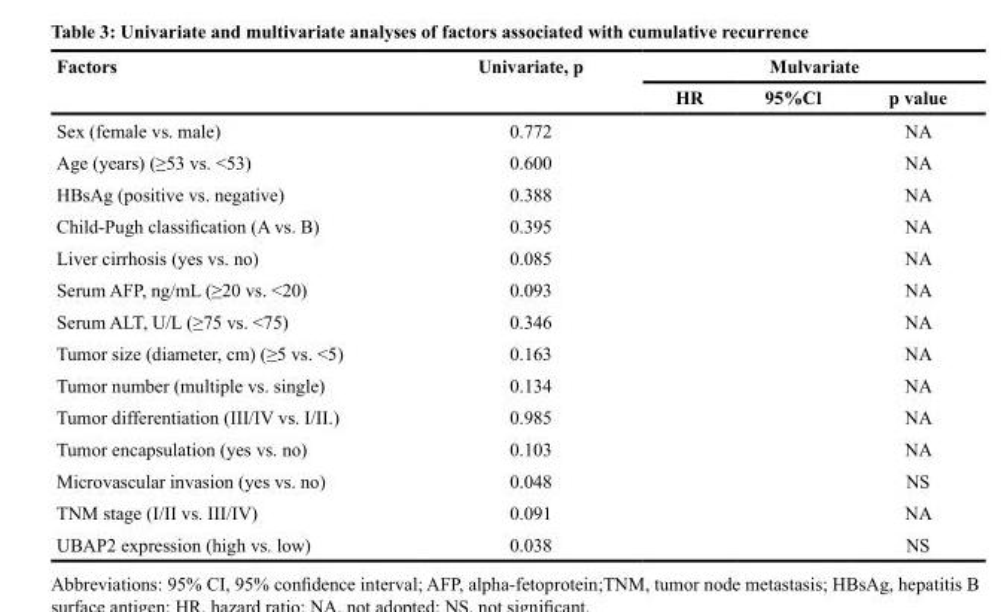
<table><thead><tr><td rowspan="2">Factors</td><td rowspan="2">Univariate, p</td><td colspan="3">Mulvariate</td></tr><tr><td>HR</td><td>95%Cl</td><td>p value</td></tr></thead><tbody><tr><td>Sex (female vs. male)</td><td>0.772</td><td></td><td></td><td>NA</td></tr><tr><td>Age (years) (≥53 vs. &lt;53)</td><td>0.600</td><td></td><td></td><td>NA</td></tr><tr><td>HBsAg (positive vs. negative)</td><td>0.388</td><td></td><td></td><td>NA</td></tr><tr><td>Child-Pugh classification (A vs. B)</td><td>0.395</td><td></td><td></td><td>NA</td></tr><tr><td>Liver cirrhosis (yes vs. no)</td><td>0.085</td><td></td><td></td><td>NA</td></tr><tr><td>Serum AFP, ng/mL (≥20 vs. &lt;20)</td><td>0.093</td><td></td><td></td><td>NA</td></tr><tr><td>Serum ALT, U/L (≥75 vs. &lt;75)</td><td>0.346</td><td></td><td></td><td>NA</td></tr><tr><td>Tumor size (diameter, cm) (≥5 vs. &lt;5)</td><td>0.163</td><td></td><td></td><td>NA</td></tr><tr><td>Tumor number (multiple vs. single)</td><td>0.134</td><td></td><td></td><td>NA</td></tr><tr><td>Tumor differentiation (III/IV vs. I/II.)</td><td>0.985</td><td></td><td></td><td>NA</td></tr><tr><td>Tumor encapsulation (yes vs. no)</td><td>0.103</td><td></td><td></td><td>NA</td></tr><tr><td>Microvascular invasion (yes vs. no)</td><td>0.048</td><td></td><td></td><td>NS</td></tr><tr><td>TNM stage (I/II vs. III/IV)</td><td>0.091</td><td></td><td></td><td>NA</td></tr><tr><td>UBAP2 expression (high vs. low)</td><td>0.038</td><td></td><td></td><td>NS</td></tr></tbody></table>